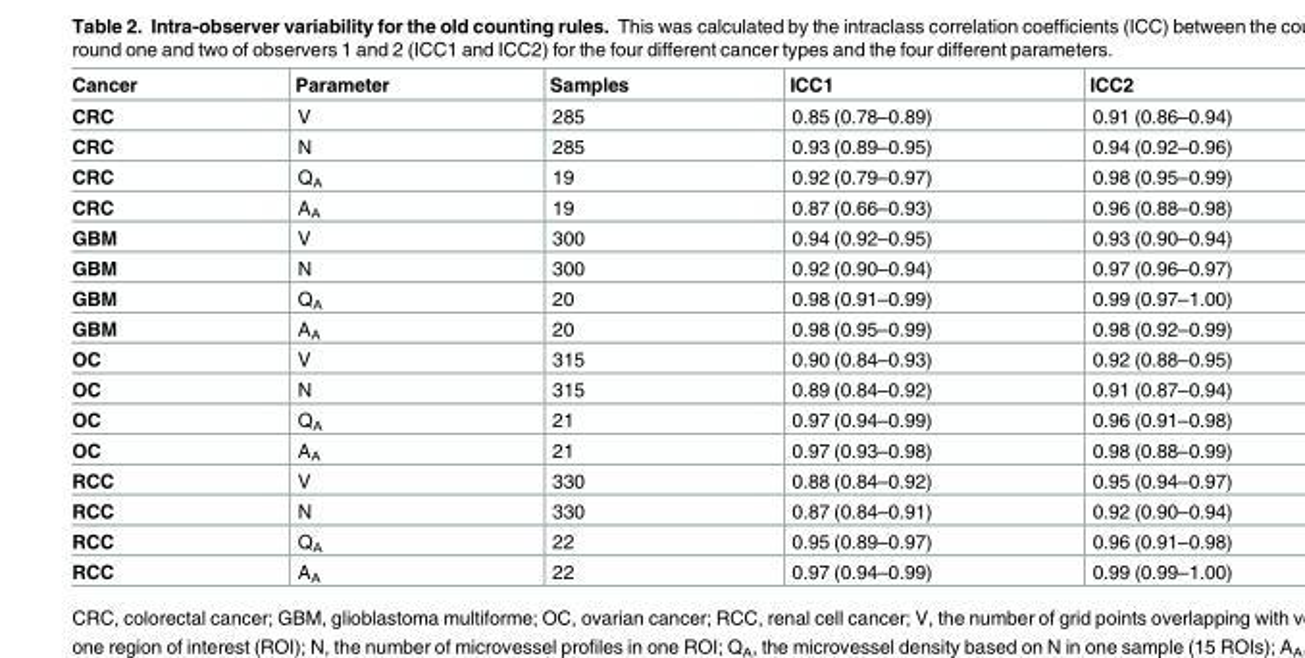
<table><thead><tr><td>Cancer</td><td>Parameter</td><td>Samples</td><td>ICC1</td><td>ICC2</td></tr></thead><tbody><tr><td>CRC</td><td>V</td><td>285</td><td>0.85 (0.78–0.89)</td><td>0.91 (0.86–0.94)</td></tr><tr><td>CRC</td><td>N</td><td>285</td><td>0.93 (0.89–0.95)</td><td>0.94 (0.92–0.96)</td></tr><tr><td>CRC</td><td>Q<sub>A</sub></td><td>19</td><td>0.92 (0.79–0.97)</td><td>0.98 (0.95–0.99)</td></tr><tr><td>CRC</td><td>A<sub>A</sub></td><td>19</td><td>0.87 (0.66–0.93)</td><td>0.96 (0.88–0.98)</td></tr><tr><td>GBM</td><td>V</td><td>300</td><td>0.94 (0.92–0.95)</td><td>0.93 (0.90–0.94)</td></tr><tr><td>GBM</td><td>N</td><td>300</td><td>0.92 (0.90–0.94)</td><td>0.97 (0.96–0.97)</td></tr><tr><td>GBM</td><td>Q<sub>A</sub></td><td>20</td><td>0.98 (0.91–0.99)</td><td>0.99 (0.97–1.00)</td></tr><tr><td>GBM</td><td>A<sub>A</sub></td><td>20</td><td>0.98 (0.95–0.99)</td><td>0.98 (0.92–0.99)</td></tr><tr><td>OC</td><td>V</td><td>315</td><td>0.90 (0.84–0.93)</td><td>0.92 (0.88–0.95)</td></tr><tr><td>OC</td><td>N</td><td>315</td><td>0.89 (0.84–0.92)</td><td>0.91 (0.87–0.94)</td></tr><tr><td>OC</td><td>Q<sub>A</sub></td><td>21</td><td>0.97 (0.94–0.99)</td><td>0.96 (0.91–0.98)</td></tr><tr><td>OC</td><td>A<sub>A</sub></td><td>21</td><td>0.97 (0.93–0.98)</td><td>0.98 (0.88–0.99)</td></tr><tr><td>RCC</td><td>V</td><td>330</td><td>0.88 (0.84–0.92)</td><td>0.95 (0.94–0.97)</td></tr><tr><td>RCC</td><td>N</td><td>330</td><td>0.87 (0.84–0.91)</td><td>0.92 (0.90–0.94)</td></tr><tr><td>RCC</td><td>Q<sub>A</sub></td><td>22</td><td>0.95 (0.89–0.97)</td><td>0.96 (0.91–0.98)</td></tr><tr><td>RCC</td><td>A<sub>A</sub></td><td>22</td><td>0.97 (0.94–0.99)</td><td>0.99 (0.99–1.00)</td></tr></tbody></table>